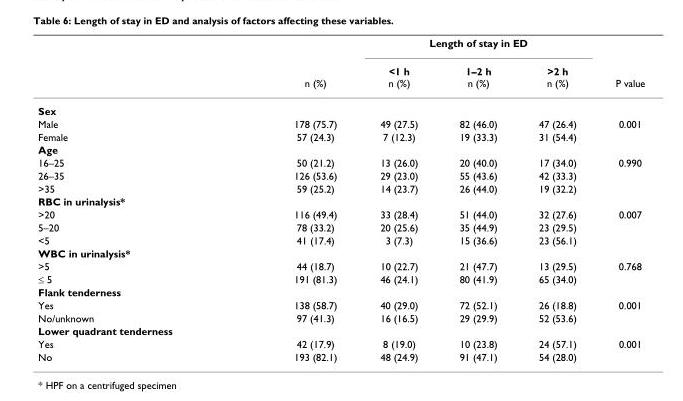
<table><thead><tr><td rowspan="2"></td><td rowspan="2">n (%)</td><td colspan="3">Length of stay in ED</td><td rowspan="2">P value</td></tr><tr><td>&lt;1 h n (%)</td><td>1–2 h n (%)</td><td>&gt;2 h n (%)</td></tr></thead><tbody><tr><td colspan="6">Sex</td></tr><tr><td>Male</td><td>178 (75.7)</td><td>49 (27.5)</td><td>82 (46.0)</td><td>47 (26.4)</td><td>0.001</td></tr><tr><td>Female</td><td>57 (24.3)</td><td>7 (12.3)</td><td>19 (33.3)</td><td>31 (54.4)</td><td></td></tr><tr><td colspan="6">Age</td></tr><tr><td>16–25</td><td>50 (21.2)</td><td>13 (26.0)</td><td>20 (40.0)</td><td>17 (34.0)</td><td>0.990</td></tr><tr><td>26–35</td><td>126 (53.6)</td><td>29 (23.0)</td><td>55 (43.6)</td><td>42 (33.3)</td><td></td></tr><tr><td>&gt;35</td><td>59 (25.2)</td><td>14 (23.7)</td><td>26 (44.0)</td><td>19 (32.2)</td><td></td></tr><tr><td colspan="6">RBC in urinalysis*</td></tr><tr><td>&gt;20</td><td>116 (49.4)</td><td>33 (28.4)</td><td>51 (44.0)</td><td>32 (27.6)</td><td>0.007</td></tr><tr><td>5–20</td><td>78 (33.2)</td><td>20 (25.6)</td><td>35 (44.9)</td><td>23 (29.5)</td><td></td></tr><tr><td>&lt;5</td><td>41 (17.4)</td><td>3 (7.3)</td><td>15 (36.6)</td><td>23 (56.1)</td><td></td></tr><tr><td colspan="6">WBC in urinalysis*</td></tr><tr><td>&gt;5</td><td>44 (18.7)</td><td>10 (22.7)</td><td>21 (47.7)</td><td>13 (29.5)</td><td>0.768</td></tr><tr><td>≤ 5</td><td>191 (81.3)</td><td>46 (24.1)</td><td>80 (41.9)</td><td>65 (34.0)</td><td></td></tr><tr><td colspan="6">Flank tenderness</td></tr><tr><td>Yes</td><td>138 (58.7)</td><td>40 (29.0)</td><td>72 (52.1)</td><td>26 (18.8)</td><td>0.001</td></tr><tr><td>No/unknown</td><td>97 (41.3)</td><td>16 (16.5)</td><td>29 (29.9)</td><td>52 (53.6)</td><td></td></tr><tr><td colspan="6">Lower quadrant tenderness</td></tr><tr><td>Yes</td><td>42 (17.9)</td><td>8 (19.0)</td><td>10 (23.8)</td><td>24 (57.1)</td><td>0.001</td></tr><tr><td>No</td><td>193 (82.1)</td><td>48 (24.9)</td><td>91 (47.1)</td><td>54 (28.0)</td><td></td></tr></tbody></table>